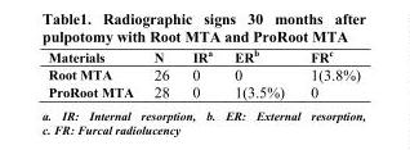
<table><thead><tr><td>Materials</td><td>N</td><td>IR<sup>a</sup></td><td>ERb</td><td>FRc</td></tr></thead><tbody><tr><td>Root MTA</td><td>26</td><td>0</td><td>0</td><td>1(3.8%)</td></tr><tr><td>ProRoot MTA</td><td>28</td><td>0</td><td>1(3.5%)</td><td>0</td></tr></tbody></table>